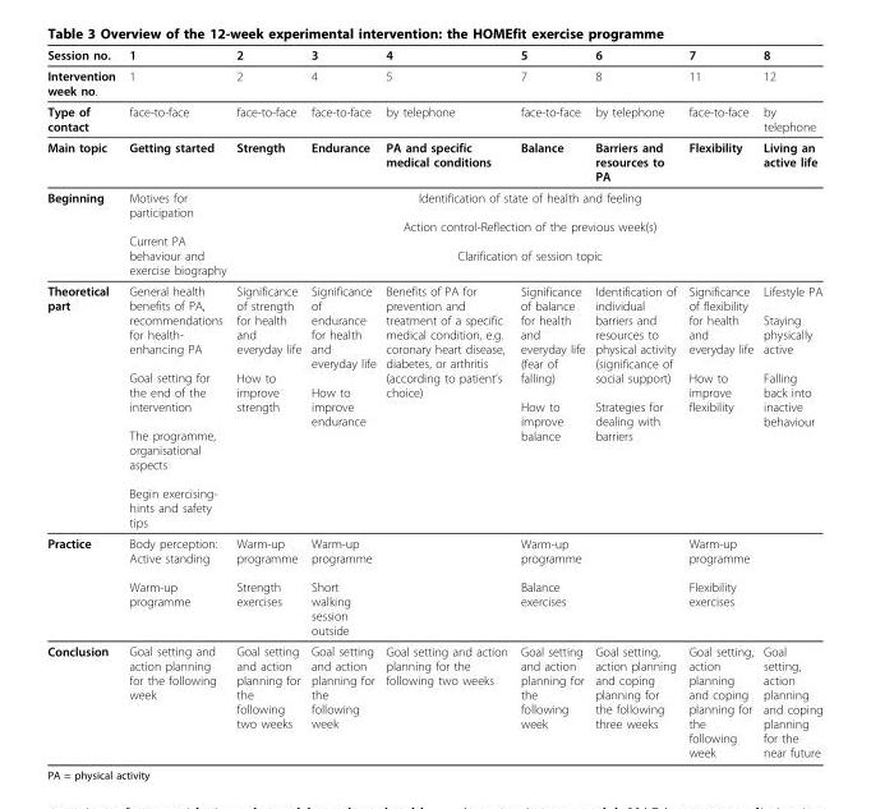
<table><thead><tr><td>Session no.</td><td>1</td><td>2</td><td>3</td><td>4</td><td>5</td><td>6</td><td>7</td><td>8</td></tr></thead><tbody><tr><td>Intervention week no.</td><td>1</td><td>2</td><td>4</td><td>5</td><td>7</td><td>8</td><td>11</td><td>12</td></tr><tr><td>Type of contact</td><td>face-to-face</td><td>face-to-face</td><td>face-to-face</td><td>by telephone</td><td>face-to-face</td><td>by telephone</td><td>face-to-face</td><td>by telephone</td></tr><tr><td>Main topic</td><td>Getting started</td><td>Strength</td><td>Endurance</td><td>PA and specific medical conditions</td><td>Balance</td><td>Barriers and resources to PA</td><td>Flexibility</td><td>Living an active life</td></tr><tr><td>Beginning</td><td>Motives for participation Current PA behaviour and exercise biography</td><td colspan="7">Identification of state of health and feeling Action control-Reflection of the previous week(s) Clarification of session topic</td></tr><tr><td>Theoretical part</td><td>General health benefits of PA, recommendations for health- enhancing PA Goal setting for the end of the intervention The programme, organisational aspects Begin exercising- hints and safety tips</td><td>Significance of strength for health and everyday life How to improve strength</td><td>Significance of endurance for health and everyday life How to improve endurance</td><td>Benefits of PA for prevention and treatment of a specific medical condition, e.g. coronary heart disease, diabetes, or arthritis (according to patient’s choice)</td><td>Significance of balance for health and everyday life (fear of falling) How to improve balance</td><td>Identification of individual barriers and resources to physical activity (significance of social support) Strategies for dealing with barriers</td><td>Significance of flexibility for health and everyday life How to improve flexibility</td><td>Lifestyle PA Staying physically active Falling back into inactive behaviour</td></tr><tr><td>Practice</td><td>Body perception: Active standing Warm-up programme</td><td>Warm-up programme Strength exercises</td><td>Warm-up programme Short walking session outside</td><td></td><td>Warm-up programme Balance exercises</td><td></td><td>Warm-up programme Flexibility exercises</td><td></td></tr><tr><td>Conclusion</td><td>Goal setting and action planning for the following week</td><td>Goal setting and action planning for the following two weeks</td><td>Goal setting and action planning for the following week</td><td>Goal setting and action planning for the following two weeks</td><td>Goal setting and action planning for the following week</td><td>Goal setting, action planning and coping planning for the following three weeks</td><td>Goal setting, action planning and coping planning for the following week</td><td>Goal setting, action planning and coping planning for the near future</td></tr></tbody></table>